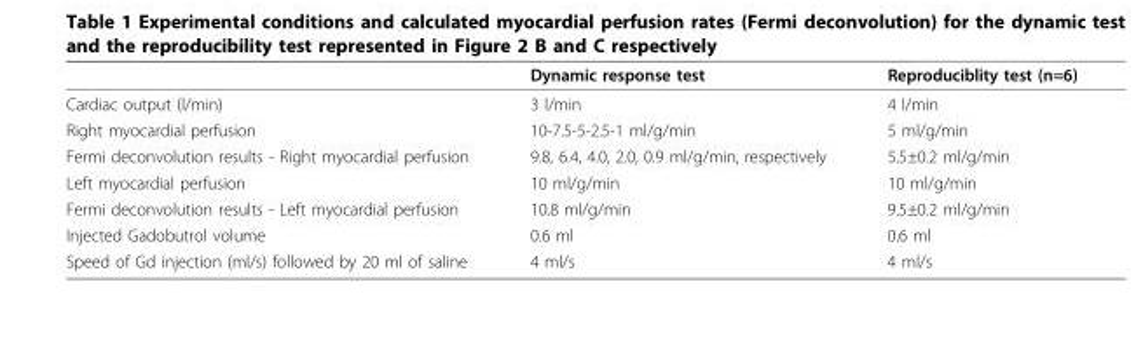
<table><thead><tr><td></td><td>Dynamic response test</td><td>Reproduciblity test (n=6)</td></tr></thead><tbody><tr><td>Cardiac output (l/min)</td><td>3 l/min</td><td>4 l/min</td></tr><tr><td>Right myocardial perfusion</td><td>10-7.5-5-2.5-1 ml/g/min</td><td>5 ml/g/min</td></tr><tr><td>Fermi deconvolution results - Right myocardial perfusion</td><td>9.8, 6.4, 4.0, 2.0, 0.9 ml/g/min, respectively</td><td>5.5±0.2 ml/g/min</td></tr><tr><td>Left myocardial perfusion</td><td>10 ml/g/min</td><td>10 ml/g/min</td></tr><tr><td>Fermi deconvolution results - Left myocardial perfusion</td><td>10.8 ml/g/min</td><td>9.5±0.2 ml/g/min</td></tr><tr><td>Injected Gadobutrol volume</td><td>0.6 ml</td><td>0.6 ml</td></tr><tr><td>Speed of Gd injection (ml/s) followed by 20 ml of saline</td><td>4 ml/s</td><td>4 ml/s</td></tr></tbody></table>